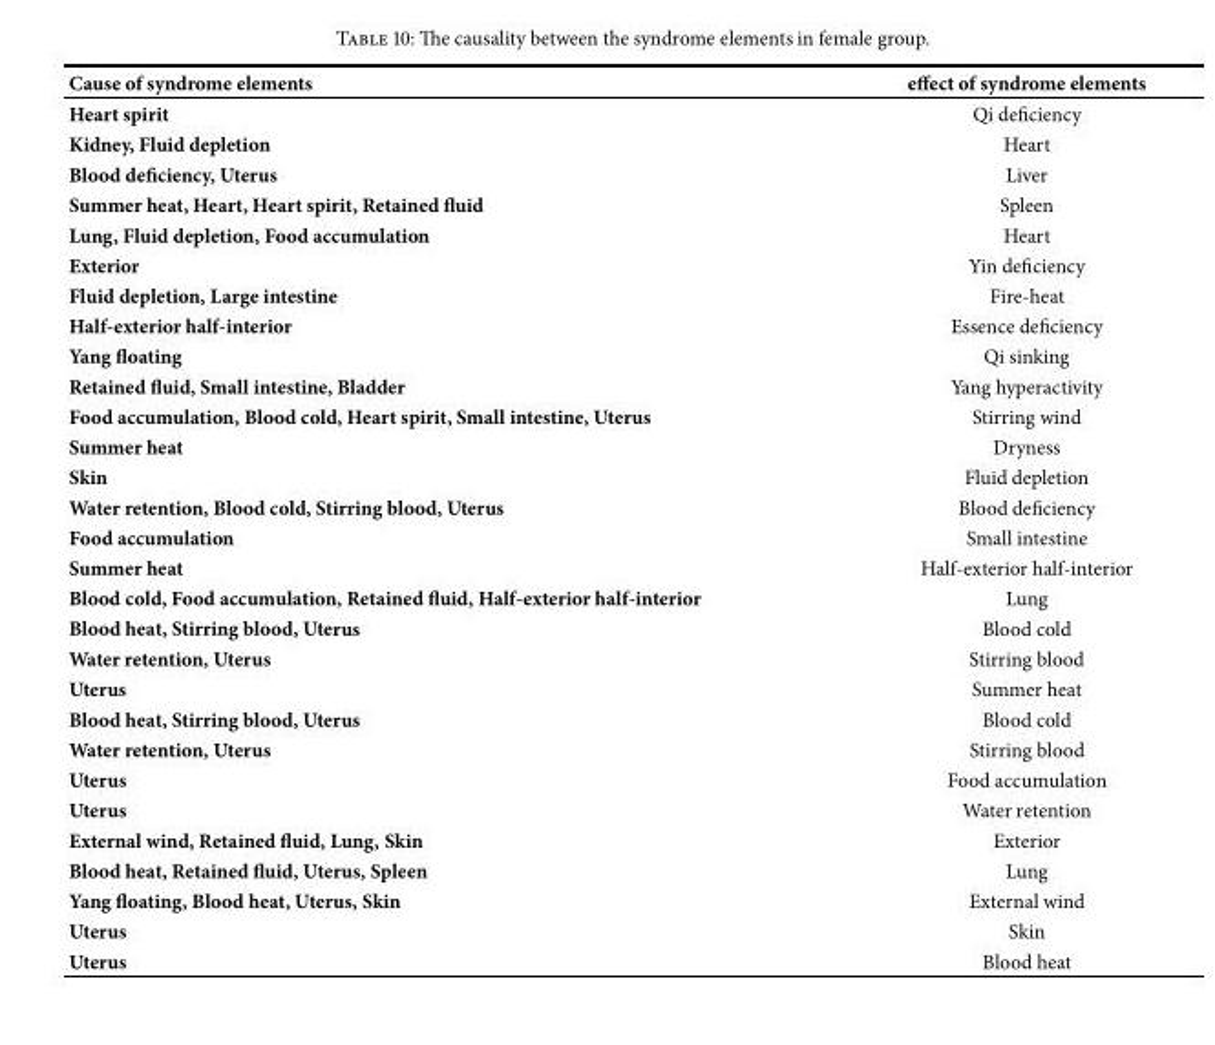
<table><thead><tr><td>Cause of syndrome elements</td><td>effect of syndrome elements</td></tr></thead><tbody><tr><td>Heart spirit</td><td>Qi deficiency</td></tr><tr><td>Kidney, Fluid depletion</td><td>Heart</td></tr><tr><td>Blood deficiency, Uterus</td><td>Liver</td></tr><tr><td>Summer heat, Heart, Heart spirit, Retained fluid</td><td>Spleen</td></tr><tr><td>Lung, Fluid depletion, Food accumulation</td><td>Heart</td></tr><tr><td>Exterior</td><td>Yin deficiency</td></tr><tr><td>Fluid depletion, Large intestine</td><td>Fire-heat</td></tr><tr><td>Half-exterior half-interior</td><td>Essence deficiency</td></tr><tr><td>Yang floating</td><td>Qi sinking</td></tr><tr><td>Retained fluid, Small intestine, Bladder</td><td>Yang hyperactivity</td></tr><tr><td>Food accumulation, Blood cold, Heart spirit, Small intestine, Uterus</td><td>Stirring wind</td></tr><tr><td>Summer heat</td><td>Dryness</td></tr><tr><td>Skin</td><td>Fluid depletion</td></tr><tr><td>Water retention, Blood cold, Stirring blood, Uterus</td><td>Blood deficiency</td></tr><tr><td>Food accumulation</td><td>Small intestine</td></tr><tr><td>Summer heat</td><td>Half-exterior half-interior</td></tr><tr><td>Blood cold, Food accumulation, Retained fluid, Half-exterior half-interior</td><td>Lung</td></tr><tr><td>Blood heat, Stirring blood, Uterus</td><td>Blood cold</td></tr><tr><td>Water retention, Uterus</td><td>Stirring blood</td></tr><tr><td>Uterus</td><td>Summer heat</td></tr><tr><td>Blood heat, Stirring blood, Uterus</td><td>Blood cold</td></tr><tr><td>Water retention, Uterus</td><td>Stirring blood</td></tr><tr><td>Uterus</td><td>Food accumulation</td></tr><tr><td>Uterus</td><td>Water retention</td></tr><tr><td>External wind, Retained fluid, Lung, Skin</td><td>Exterior</td></tr><tr><td>Blood heat, Retained fluid, Uterus, Spleen</td><td>Lung</td></tr><tr><td>Yang floating, Blood heat, Uterus, Skin</td><td>External wind</td></tr><tr><td>Uterus</td><td>Skin</td></tr><tr><td>Uterus</td><td>Blood heat</td></tr></tbody></table>